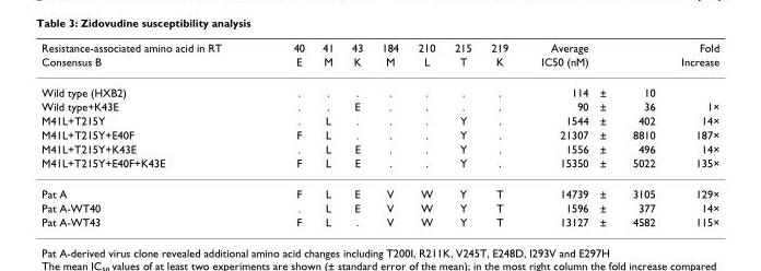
<table><thead><tr><td rowspan="2">Resistance-associated amino acid in RT Consensus B</td><td rowspan="2">40 E</td><td rowspan="2">41 M</td><td rowspan="2">43 K</td><td rowspan="2">184 M</td><td rowspan="2">210 L</td><td rowspan="2">215 T</td><td rowspan="2">219 K</td><td rowspan="2">Average IC50 (nM)</td><td rowspan="2"></td><td rowspan="2"></td><td rowspan="2">Fold Increase</td></tr><tr></tr></thead><tbody><tr><td>Wild type (HXB2)</td><td>.</td><td>.</td><td>.</td><td>.</td><td>.</td><td>.</td><td>.</td><td>114</td><td>±</td><td>10</td><td></td></tr><tr><td>Wild type+K43E</td><td>.</td><td>.</td><td>E</td><td>.</td><td>.</td><td>.</td><td>.</td><td>90</td><td>±</td><td>36</td><td>1×</td></tr><tr><td>M41L+T215Y</td><td>.</td><td>L</td><td>.</td><td>.</td><td>.</td><td>Y</td><td>.</td><td>1544</td><td>±</td><td>402</td><td>14×</td></tr><tr><td>M41L+T215Y+E40F</td><td>F</td><td>L</td><td>.</td><td>.</td><td>.</td><td>Y</td><td>.</td><td>21307</td><td>±</td><td>8810</td><td>187×</td></tr><tr><td>M41L+T215Y+K43E</td><td>.</td><td>L</td><td>E</td><td>.</td><td>.</td><td>Y</td><td>.</td><td>1556</td><td>±</td><td>496</td><td>14×</td></tr><tr><td>M41L+T215Y+E40F+K43E</td><td>F</td><td>L</td><td>E</td><td>.</td><td>.</td><td>Y</td><td>.</td><td>15350</td><td>±</td><td>5022</td><td>135×</td></tr><tr><td>Pat A</td><td>F</td><td>L</td><td>E</td><td>V</td><td>W</td><td>Y</td><td>T</td><td>14739</td><td>±</td><td>3105</td><td>129×</td></tr><tr><td>Pat A-WT40</td><td>.</td><td>L</td><td>E</td><td>V</td><td>W</td><td>Y</td><td>T</td><td>1596</td><td>±</td><td>377</td><td>14×</td></tr><tr><td>Pat A-WT43</td><td>F</td><td>L</td><td>.</td><td>V</td><td>W</td><td>Y</td><td>T</td><td>13127</td><td>±</td><td>4582</td><td>115×</td></tr></tbody></table>